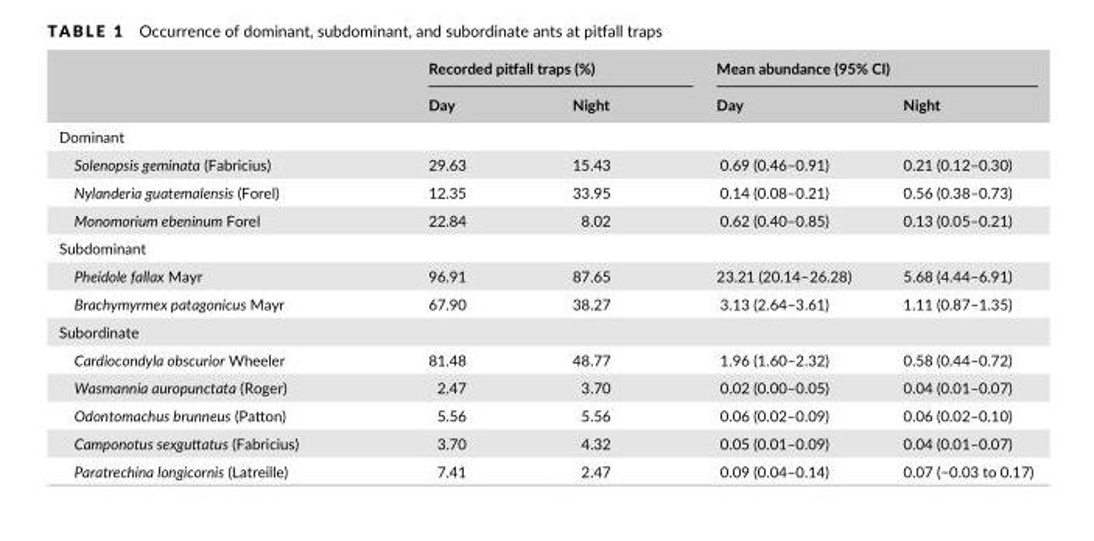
<table><thead><tr><td rowspan="2"></td><td colspan="2">Recorded pitfall traps (%)</td><td colspan="2">Mean abundance (95% CI)</td></tr><tr><td>Day</td><td>Night</td><td>Day</td><td>Night</td></tr></thead><tbody><tr><td colspan="5">Dominant</td></tr><tr><td>Solenopsis geminata (Fabricius)</td><td>29.63</td><td>15.43</td><td>0.69 (0.46–0.91)</td><td>0.21 (0.12–0.30)</td></tr><tr><td>Nylanderia guatemalensis (Forel)</td><td>12.35</td><td>33.95</td><td>0.14 (0.08–0.21)</td><td>0.56 (0.38–0.73)</td></tr><tr><td>Monomorium ebeninum Forel</td><td>22.84</td><td>8.02</td><td>0.62 (0.40–0.85)</td><td>0.13 (0.05–0.21)</td></tr><tr><td colspan="5">Subdominant</td></tr><tr><td>Pheidole fallax Mayr</td><td>96.91</td><td>87.65</td><td>23.21 (20.14–26.28)</td><td>5.68 (4.44–6.91)</td></tr><tr><td>Brachymyrmex patagonicus Mayr</td><td>67.90</td><td>38.27</td><td>3.13 (2.64–3.61)</td><td>1.11 (0.87–1.35)</td></tr><tr><td colspan="5">Subordinate</td></tr><tr><td>Cardiocondyla obscurior Wheeler</td><td>81.48</td><td>48.77</td><td>1.96 (1.60–2.32)</td><td>0.58 (0.44–0.72)</td></tr><tr><td>Wasmannia auropunctata (Roger)</td><td>2.47</td><td>3.70</td><td>0.02 (0.00–0.05)</td><td>0.04 (0.01–0.07)</td></tr><tr><td>Odontomachus brunneus (Patton)</td><td>5.56</td><td>5.56</td><td>0.06 (0.02–0.09)</td><td>0.06 (0.02–0.10)</td></tr><tr><td>Camponotus sexguttatus (Fabricius)</td><td>3.70</td><td>4.32</td><td>0.05 (0.01–0.09)</td><td>0.04 (0.01–0.07)</td></tr><tr><td>Paratrechina longicornis (Latreille)</td><td>7.41</td><td>2.47</td><td>0.09 (0.04–0.14)</td><td>0.07 (−0.03 to 0.17)</td></tr></tbody></table>